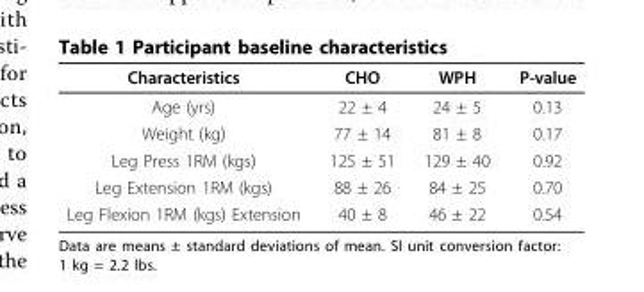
<table><thead><tr><td>Characteristics</td><td>CHO</td><td>WPH</td><td>P-value</td></tr></thead><tbody><tr><td>Age (yrs)</td><td>22 ± 4</td><td>24 ± 5</td><td>0.13</td></tr><tr><td>Weight (kg)</td><td>77 ± 14</td><td>81 ± 8</td><td>0.17</td></tr><tr><td>Leg Press 1RM (kgs)</td><td>125 ± 51</td><td>129 ± 40</td><td>0.92</td></tr><tr><td>Leg Extension 1RM (kgs)</td><td>88 ± 26</td><td>84 ± 25</td><td>0.70</td></tr><tr><td>Leg Flexion 1RM (kgs) Extension</td><td>40 ± 8</td><td>46 ± 22</td><td>0.54</td></tr></tbody></table>